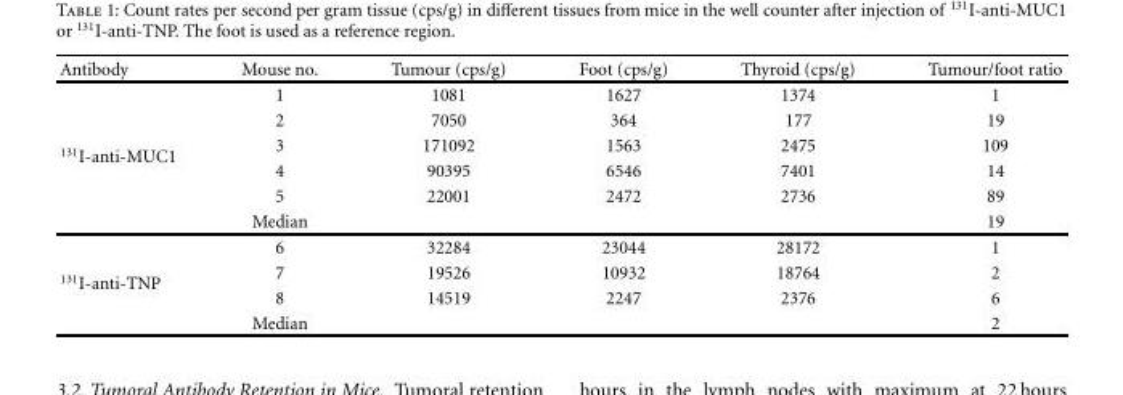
<table><thead><tr><td>Antibody</td><td>Mouse no.</td><td>Tumour (cps/g)</td><td>Foot (cps/g)</td><td>Thyroid (cps/g)</td><td>Tumour/foot ratio</td></tr></thead><tbody><tr><td rowspan="6"><sup>131</sup>I-anti-MUC1</td><td>1</td><td>1081</td><td>1627</td><td>1374</td><td>1</td></tr><tr><td>2</td><td>7050</td><td>364</td><td>177</td><td>19</td></tr><tr><td>3</td><td>171092</td><td>1563</td><td>2475</td><td>109</td></tr><tr><td>4</td><td>90395</td><td>6546</td><td>7401</td><td>14</td></tr><tr><td>5</td><td>22001</td><td>2472</td><td>2736</td><td>89</td></tr><tr><td>Median</td><td></td><td></td><td></td><td>19</td></tr><tr><td rowspan="4"><sup>131</sup>I-anti-TNP</td><td>6</td><td>32284</td><td>23044</td><td>28172</td><td>1</td></tr><tr><td>7</td><td>19526</td><td>10932</td><td>18764</td><td>2</td></tr><tr><td>8</td><td>14519</td><td>2247</td><td>2376</td><td>6</td></tr><tr><td>Median</td><td></td><td></td><td></td><td>2</td></tr></tbody></table>